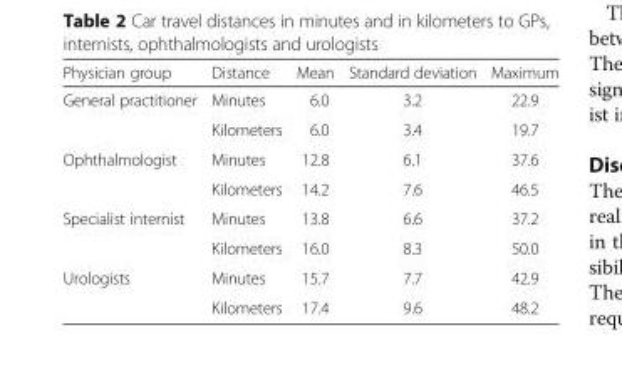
<table><thead><tr><td>Physician group</td><td>Distance</td><td>Mean</td><td>Standard deviation</td><td>Maximum</td></tr></thead><tbody><tr><td rowspan="2">General practitioner</td><td>Minutes</td><td>6.0</td><td>3.2</td><td>22.9</td></tr><tr><td>Kilometers</td><td>6.0</td><td>3.4</td><td>19.7</td></tr><tr><td rowspan="2">Ophthalmologist</td><td>Minutes</td><td>12.8</td><td>6.1</td><td>37.6</td></tr><tr><td>Kilometers</td><td>14.2</td><td>7.6</td><td>46.5</td></tr><tr><td rowspan="2">Specialist internist</td><td>Minutes</td><td>13.8</td><td>6.6</td><td>37.2</td></tr><tr><td>Kilometers</td><td>16.0</td><td>8.3</td><td>50.0</td></tr><tr><td rowspan="2">Urologists</td><td>Minutes</td><td>15.7</td><td>7.7</td><td>42.9</td></tr><tr><td>Kilometers</td><td>17.4</td><td>9.6</td><td>48.2</td></tr></tbody></table>